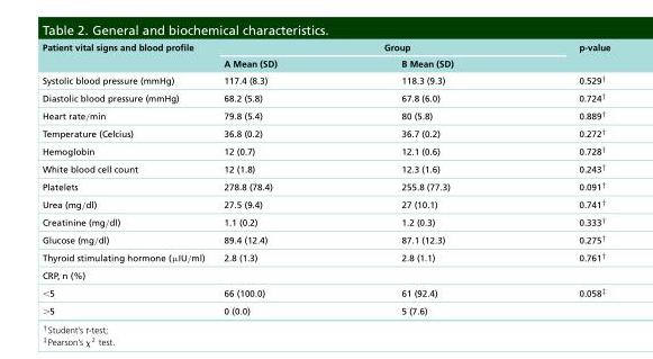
<table><thead><tr><td rowspan="2">Patient vital signs and blood profile</td><td colspan="2">Group</td><td rowspan="2">p-value</td></tr><tr><td>A Mean (SD)</td><td>B Mean (SD)</td></tr></thead><tbody><tr><td>Systolic blood pressure (mmHg)</td><td>117.4 (8.3)</td><td>118.3 (9.3)</td><td>0.529<sup>†</sup></td></tr><tr><td>Diastolic blood pressure (mmHg)</td><td>68.2 (5.8)</td><td>67.8 (6.0)</td><td>0.724<sup>†</sup></td></tr><tr><td>Heart rate/min</td><td>79.8 (5.4)</td><td>80 (5.8)</td><td>0.889<sup>†</sup></td></tr><tr><td>Temperature (Celcius)</td><td>36.8 (0.2)</td><td>36.7 (0.2)</td><td>0.272<sup>†</sup></td></tr><tr><td>Hemoglobin</td><td>12 (0.7)</td><td>12.1 (0.6)</td><td>0.728<sup>†</sup></td></tr><tr><td>White blood cell count</td><td>12 (1.8)</td><td>12.3 (1.6)</td><td>0.243<sup>†</sup></td></tr><tr><td>Platelets</td><td>278.8 (78.4)</td><td>255.8 (77.3)</td><td>0.091<sup>†</sup></td></tr><tr><td>Urea (mg/dl)</td><td>27.5 (9.4)</td><td>27 (10.1)</td><td>0.741<sup>†</sup></td></tr><tr><td>Creatinine (mg/dl)</td><td>1.1 (0.2)</td><td>1.2 (0.3)</td><td>0.333<sup>†</sup></td></tr><tr><td>Glucose (mg/dl)</td><td>89.4 (12.4)</td><td>87.1 (12.3)</td><td>0.275<sup>†</sup></td></tr><tr><td>Thyroid stimulating hormone (μIU/ml)</td><td>2.8 (1.3)</td><td>2.8 (1.1)</td><td>0.761<sup>†</sup></td></tr><tr><td colspan="4">CRP, n (%)</td></tr><tr><td>&lt;5</td><td>66 (100.0)</td><td>61 (92.4)</td><td>0.058<sup>‡</sup></td></tr><tr><td>&gt;5</td><td>0 (0.0)</td><td>5 (7.6)</td><td></td></tr></tbody></table>